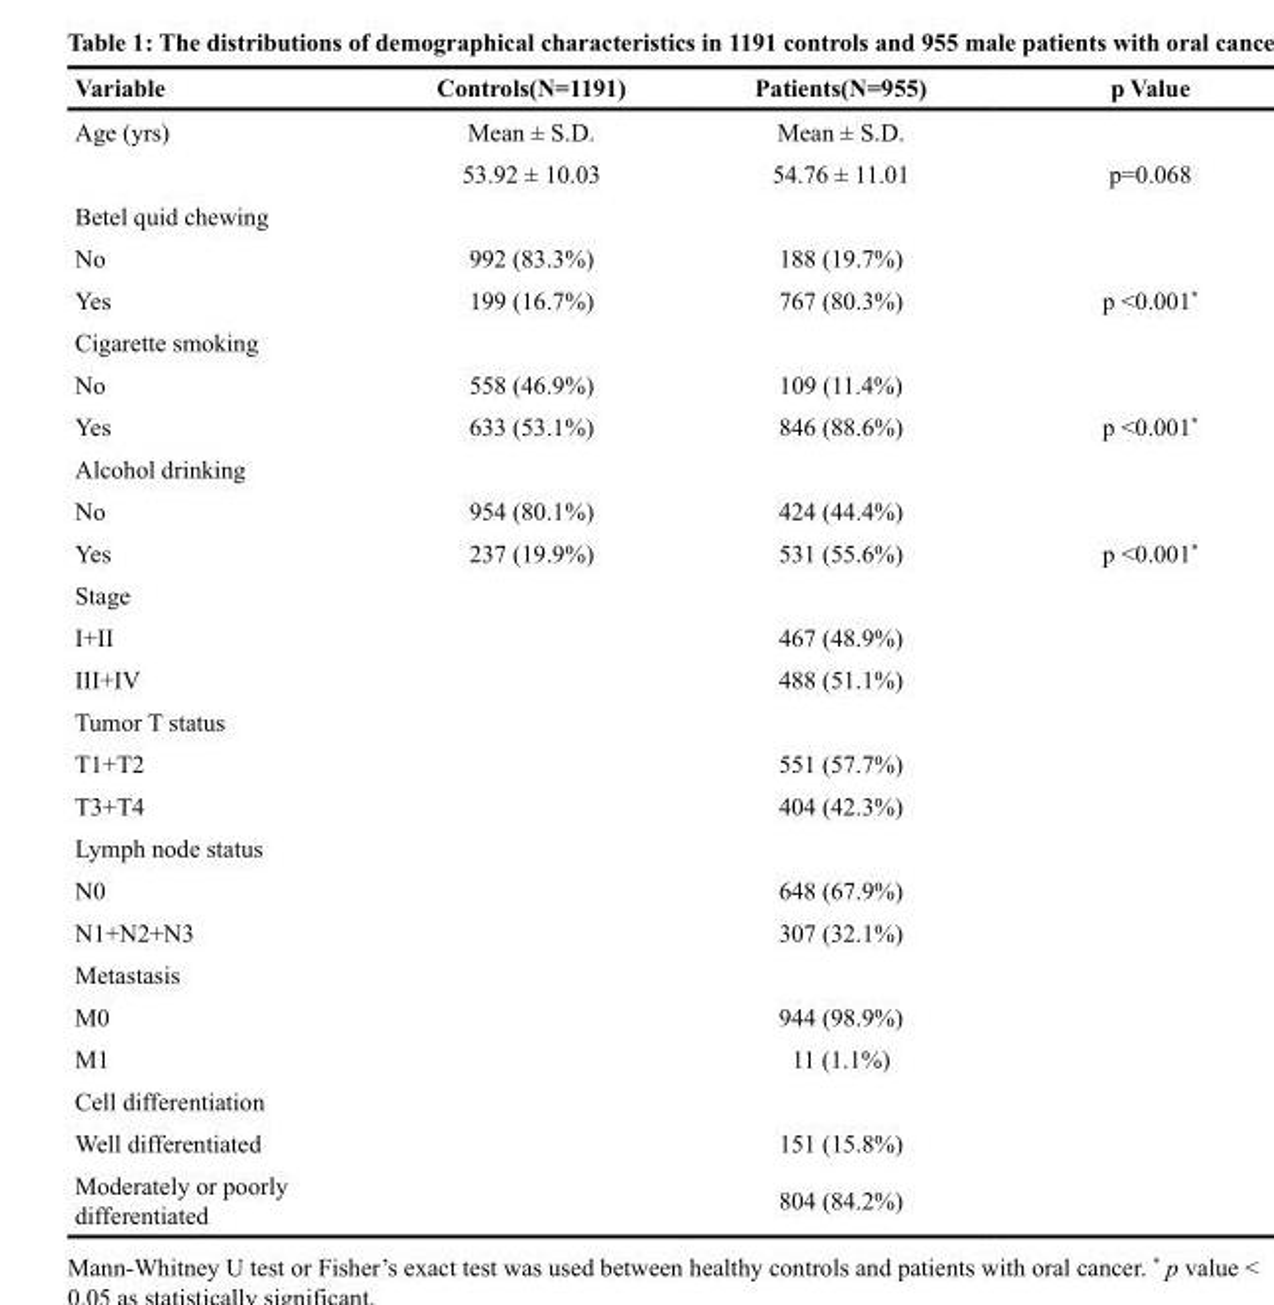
<table><thead><tr><td>Variable</td><td>Controls(N=1191)</td><td>Patients(N=955)</td><td>p Value</td></tr></thead><tbody><tr><td rowspan="2">Age (yrs)</td><td>Mean ± S.D.</td><td>Mean ± S.D.</td><td></td></tr><tr><td>53.92 ± 10.03</td><td>54.76 ± 11.01</td><td>p=0.068</td></tr><tr><td colspan="4">Betel quid chewing</td></tr><tr><td>No</td><td>992 (83.3%)</td><td>188 (19.7%)</td><td></td></tr><tr><td>Yes</td><td>199 (16.7%)</td><td>767 (80.3%)</td><td>p &lt;0.001*</td></tr><tr><td colspan="4">Cigarette smoking</td></tr><tr><td>No</td><td>558 (46.9%)</td><td>109 (11.4%)</td><td></td></tr><tr><td>Yes</td><td>633 (53.1%)</td><td>846 (88.6%)</td><td>p &lt;0.001*</td></tr><tr><td colspan="4">Alcohol drinking</td></tr><tr><td>No</td><td>954 (80.1%)</td><td>424 (44.4%)</td><td></td></tr><tr><td>Yes</td><td>237 (19.9%)</td><td>531 (55.6%)</td><td>p &lt;0.001*</td></tr><tr><td colspan="4">Stage</td></tr><tr><td>I+II</td><td></td><td>467 (48.9%)</td><td></td></tr><tr><td>III+IV</td><td></td><td>488 (51.1%)</td><td></td></tr><tr><td colspan="4">Tumor T status</td></tr><tr><td>T1+T2</td><td></td><td>551 (57.7%)</td><td></td></tr><tr><td>T3+T4</td><td></td><td>404 (42.3%)</td><td></td></tr><tr><td colspan="4">Lymph node status</td></tr><tr><td>N0</td><td></td><td>648 (67.9%)</td><td></td></tr><tr><td>N1+N2+N3</td><td></td><td>307 (32.1%)</td><td></td></tr><tr><td colspan="4">Metastasis</td></tr><tr><td>M0</td><td></td><td>944 (98.9%)</td><td></td></tr><tr><td>M1</td><td></td><td>11 (1.1%)</td><td></td></tr><tr><td colspan="4">Cell differentiation</td></tr><tr><td>Well differentiated</td><td></td><td>151 (15.8%)</td><td></td></tr><tr><td>Moderately or poorly differentiated</td><td></td><td>804 (84.2%)</td><td></td></tr></tbody></table>